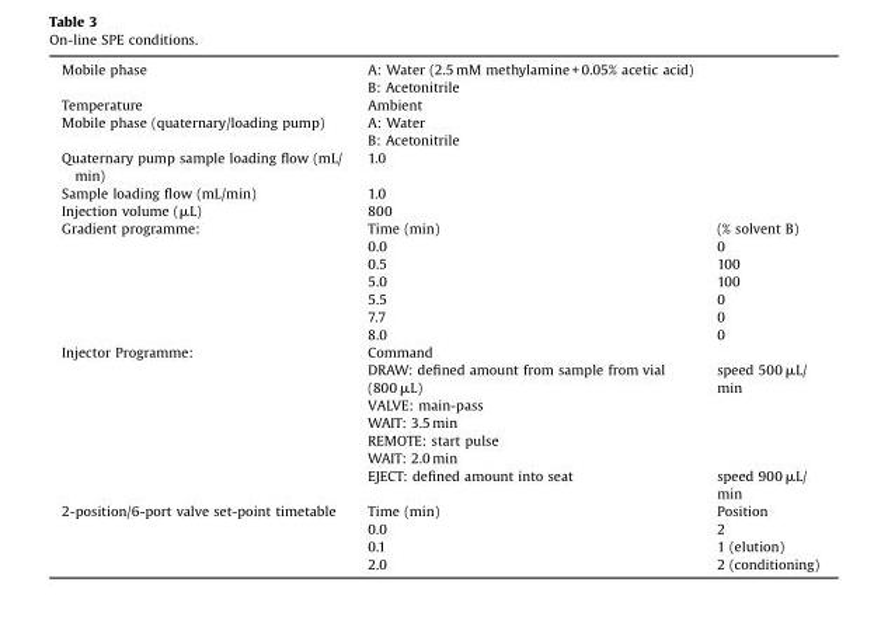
<table><tbody><tr><td rowspan="2">Mobile phase</td><td>A: Water (2.5 mM methylamine + 0.05% acetic acid)</td><td></td></tr><tr><td>B: Acetonitrile</td><td></td></tr><tr><td>Temperature</td><td>Ambient</td><td></td></tr><tr><td rowspan="2">Mobile phase (quaternary/loading pump)</td><td>A: Water</td><td></td></tr><tr><td>B: Acetonitrile</td><td></td></tr><tr><td>Quaternary pump sample loading flow (mL/ min)</td><td>1.0</td><td></td></tr><tr><td>Sample loading flow (mL/min)</td><td>1.0</td><td></td></tr><tr><td>Injection volume (μL)</td><td>800</td><td></td></tr><tr><td rowspan="7">Gradient programme:</td><td>Time (min)</td><td>(% solvent B)</td></tr><tr><td>0.0</td><td>0</td></tr><tr><td>0.5</td><td>100</td></tr><tr><td>5.0</td><td>100</td></tr><tr><td>5.5</td><td>0</td></tr><tr><td>7.7</td><td>0</td></tr><tr><td>8.0</td><td>0</td></tr><tr><td rowspan="7">Injector Programme:</td><td>Command</td><td></td></tr><tr><td>DRAW: defined amount from sample from vial (800 μL)</td><td>speed 500 μL/ min</td></tr><tr><td>VALVE: main-pass</td><td></td></tr><tr><td>WAIT: 3.5 min</td><td></td></tr><tr><td>REMOTE: start pulse</td><td></td></tr><tr><td>WAIT: 2.0 min</td><td></td></tr><tr><td>EJECT: defined amount into seat</td><td>speed 900 μL/ min</td></tr><tr><td rowspan="4">2-position/6-port valve set-point timetable</td><td>Time (min)</td><td>Position</td></tr><tr><td>0.0</td><td>2</td></tr><tr><td>0.1</td><td>1 (elution)</td></tr><tr><td>2.0</td><td>2 (conditioning)</td></tr></tbody></table>